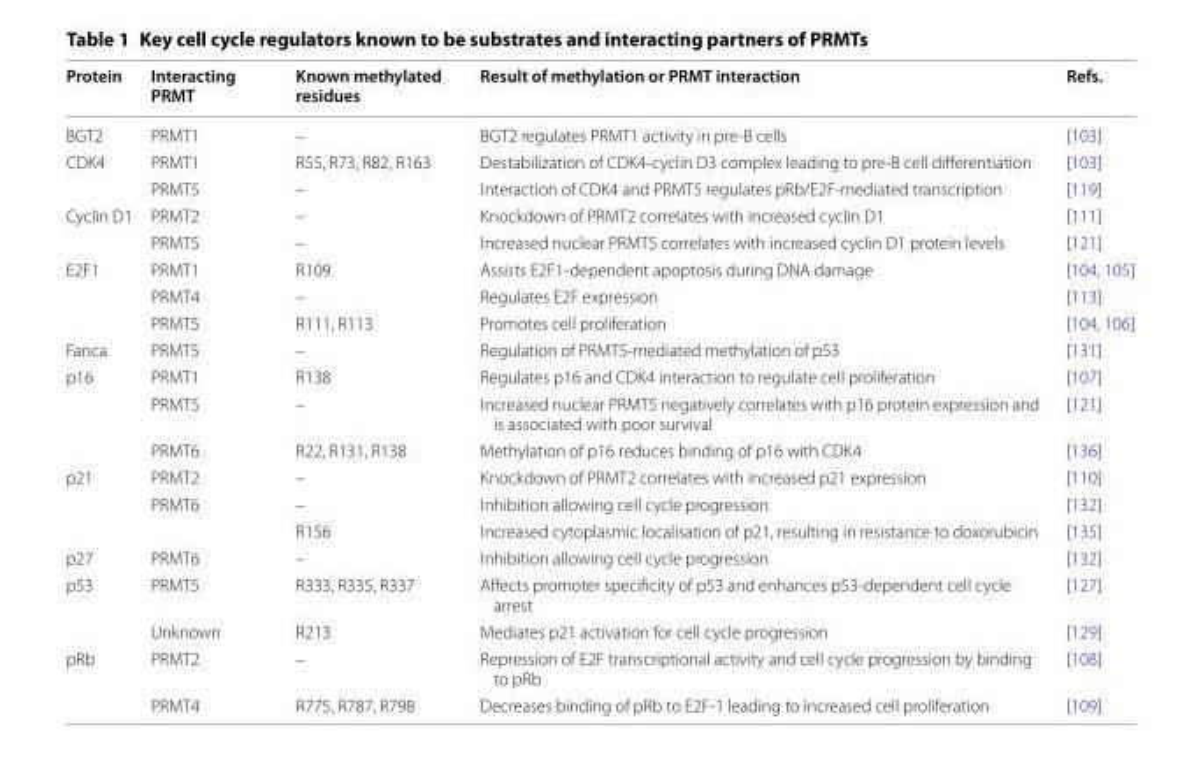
<table><thead><tr><td>Protein</td><td>Interacting PRMT</td><td>Known methylated residues</td><td>Result of methylation or PRMT interaction</td><td>Refs.</td></tr></thead><tbody><tr><td>BGT2</td><td>PRMT1</td><td>–</td><td>BGT2 regulates PRMT1 activity in pre-B cells</td><td>[103]</td></tr><tr><td rowspan="2">CDK4</td><td>PRMT1</td><td>R55, R73, R82, R163</td><td>Destabilization of CDK4-cyclin D3 complex leading to pre-B cell differentiation</td><td>[103]</td></tr><tr><td>PRMT5</td><td>–</td><td>Interaction of CDK4 and PRMT5 regulates pRb/E2F-mediated transcription</td><td>[119]</td></tr><tr><td rowspan="2">Cyclin D1</td><td>PRMT2</td><td>–</td><td>Knockdown of PRMT2 correlates with increased cyclin D1</td><td>[111]</td></tr><tr><td>PRMT5</td><td>–</td><td>Increased nuclear PRMT5 correlates with increased cyclin D1 protein levels</td><td>[121]</td></tr><tr><td rowspan="3">E2F1</td><td>PRMT1</td><td>R109</td><td>Assists E2F1-dependent apoptosis during DNA damage</td><td>[104, 105]</td></tr><tr><td>PRMT4</td><td>–</td><td>Regulates E2F expression</td><td>[113]</td></tr><tr><td>PRMT5</td><td>R111, R113</td><td>Promotes cell proliferation</td><td>[104, 106]</td></tr><tr><td>Fanca</td><td>PRMT5</td><td>–</td><td>Regulation of PRMT5-mediated methylation of p53</td><td>[131]</td></tr><tr><td rowspan="3">p16</td><td>PRMT1</td><td>R138</td><td>Regulates p16 and CDK4 interaction to regulate cell proliferation</td><td>[107]</td></tr><tr><td>PRMT5</td><td>–</td><td>Increased nuclear PRMT5 negatively correlates with p16 protein expression and is associated with poor survival</td><td>[121]</td></tr><tr><td>PRMT6</td><td>R22, R131, R138</td><td>Methylation of p16 reduces binding of p16 with CDK4</td><td>[136]</td></tr><tr><td rowspan="3">p21</td><td>PRMT2</td><td>–</td><td>Knockdown of PRMT2 correlates with increased p21 expression</td><td>[110]</td></tr><tr><td rowspan="2">PRMT6</td><td>–</td><td>Inhibition allowing cell cycle progression</td><td>[132]</td></tr><tr><td>R156</td><td>Increased cytoplasmic localisation of p21, resulting in resistance to doxorubicin</td><td>[135]</td></tr><tr><td>p27</td><td>PRMT6</td><td>–</td><td>Inhibition allowing cell cycle progression</td><td>[132]</td></tr><tr><td rowspan="2">p53</td><td>PRMT5</td><td>R333, R335, R337</td><td>Affects promoter specificity of p53 and enhances p53-dependent cell cycle arrest</td><td>[127]</td></tr><tr><td>Unknown</td><td>R213</td><td>Mediates p21 activation for cell cycle progression</td><td>[129]</td></tr><tr><td rowspan="2">pRb</td><td>PRMT2</td><td>–</td><td>Repression of E2F transcriptional activity and cell cycle progression by binding to pRb</td><td>[108]</td></tr><tr><td>PRMT4</td><td>R775, R787, R798</td><td>Decreases binding of pRb to E2F-1 leading to increased cell proliferation</td><td>[109]</td></tr></tbody></table>